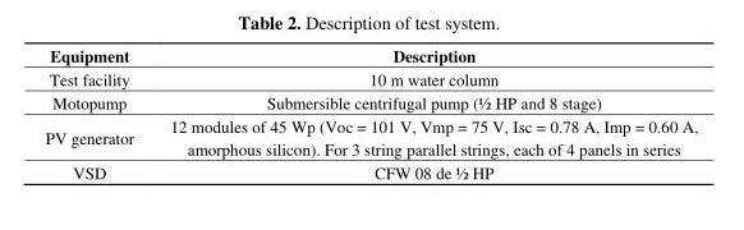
<table><thead><tr><td>Equipment</td><td>Description</td></tr></thead><tbody><tr><td>Test facility</td><td>10 m water column</td></tr><tr><td>Motopump</td><td>Submersible centrifugal pump (½ HP and 8 stage)</td></tr><tr><td>PV generator</td><td>12 modules of 45 Wp (Voc = 101 V, Vmp = 75 V, Isc = 0.78 A, Imp = 0.60 A, amorphous silicon). For 3 string parallel strings, each of 4 panels in series</td></tr><tr><td>VSD</td><td>CFW 08 de ½ HP</td></tr></tbody></table>